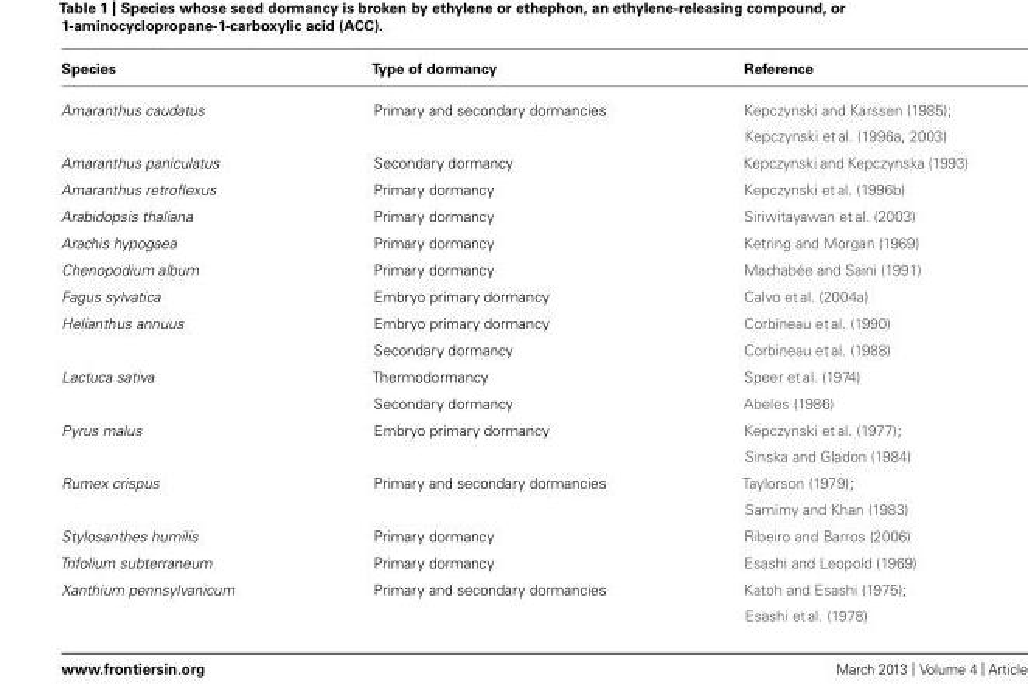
<table><thead><tr><td>Species</td><td>Type of dormancy</td><td>Reference</td></tr></thead><tbody><tr><td>Amaranthus caudatus</td><td>Primary and secondary dormancies</td><td>Kepczynski and Karssen (1985); Kepczynski et al. (1996a, 2003)</td></tr><tr><td>Amaranthus paniculatus</td><td>Secondary dormancy</td><td>Kepczynski and Kepczynska (1993)</td></tr><tr><td>Amaranthus retroflexus</td><td>Primary dormancy</td><td>Kepczynski et al. (1996b)</td></tr><tr><td>Arabidopsis thaliana</td><td>Primary dormancy</td><td>Siriwitayawan et al. (2003)</td></tr><tr><td>Arachis hypogaea</td><td>Primary dormancy</td><td>Ketring and Morgan (1969)</td></tr><tr><td>Chenopodium album</td><td>Primary dormancy</td><td>Machabée and Saini (1991)</td></tr><tr><td>Fagus sylvatica</td><td>Embryo primary dormancy</td><td>Calvo et al. (2004a)</td></tr><tr><td rowspan="2">Helianthus annuus</td><td>Embryo primary dormancy</td><td>Corbineau et al. (1990)</td></tr><tr><td>Secondary dormancy</td><td>Corbineau et al. (1988)</td></tr><tr><td rowspan="2">Lactuca sativa</td><td>Thermodormancy</td><td>Speer et al. (1974)</td></tr><tr><td>Secondary dormancy</td><td>Abeles (1986)</td></tr><tr><td>Pyrus malus</td><td>Embryo primary dormancy</td><td>Kepczynski et al. (1977); Sinska and Gladon (1984)</td></tr><tr><td>Rumex crispus</td><td>Primary and secondary dormancies</td><td>Taylorson (1979); Samimy and Khan (1983)</td></tr><tr><td>Stylosanthes humilis</td><td>Primary dormancy</td><td>Ribeiro and Barros (2006)</td></tr><tr><td>Trifolium subterraneum</td><td>Primary dormancy</td><td>Esashi and Leopold (1969)</td></tr><tr><td>Xanthium pennsylvanicum</td><td>Primary and secondary dormancies</td><td>Katoh and Esashi (1975); Esashi et al. (1978)</td></tr></tbody></table>